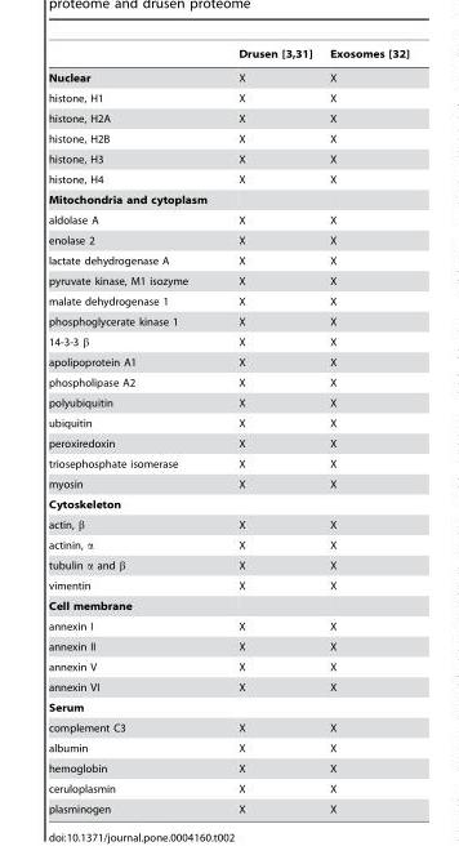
<table><thead><tr><td></td><td>Drusen [3,31]</td><td>Exosomes [32]</td></tr></thead><tbody><tr><td>Nuclear</td><td>X</td><td>X</td></tr><tr><td>histone, H1</td><td>X</td><td>X</td></tr><tr><td>histone, H2A</td><td>X</td><td>X</td></tr><tr><td>histone, H2B</td><td>X</td><td>X</td></tr><tr><td>histone, H3</td><td>X</td><td>X</td></tr><tr><td>histone, H4</td><td>X</td><td>X</td></tr><tr><td colspan="3">Mitochondria and cytoplasm</td></tr><tr><td>aldolase A</td><td>X</td><td>X</td></tr><tr><td>enolase 2</td><td>X</td><td>X</td></tr><tr><td>lactate dehydrogenase A</td><td>X</td><td>X</td></tr><tr><td>pyruvate kinase, M1 isozyme</td><td>X</td><td>X</td></tr><tr><td>malate dehydrogenase 1</td><td>X</td><td>X</td></tr><tr><td>phosphoglycerate kinase 1</td><td>X</td><td>X</td></tr><tr><td>14-3-3 β</td><td>X</td><td>X</td></tr><tr><td>apolipoprotein A1</td><td>X</td><td>X</td></tr><tr><td>phospholipase A2</td><td>X</td><td>X</td></tr><tr><td>polyubiquitin</td><td>X</td><td>X</td></tr><tr><td>ubiquitin</td><td>X</td><td>X</td></tr><tr><td>peroxiredoxin</td><td>X</td><td>X</td></tr><tr><td>triosephosphate isomerase</td><td>X</td><td>X</td></tr><tr><td>myosin</td><td>X</td><td>X</td></tr><tr><td colspan="3">Cytoskeleton</td></tr><tr><td>actin, β</td><td>X</td><td>X</td></tr><tr><td>actinin, α</td><td>X</td><td>X</td></tr><tr><td>tubulin α and β</td><td>X</td><td>X</td></tr><tr><td>vimentin</td><td>X</td><td>X</td></tr><tr><td colspan="3">Cell membrane</td></tr><tr><td>annexin I</td><td>X</td><td>X</td></tr><tr><td>annexin II</td><td>X</td><td>X</td></tr><tr><td>annexin V</td><td>X</td><td>X</td></tr><tr><td>annexin VI</td><td>X</td><td>X</td></tr><tr><td colspan="3">Serum</td></tr><tr><td>complement C3</td><td>X</td><td>X</td></tr><tr><td>albumin</td><td>X</td><td>X</td></tr><tr><td>hemoglobin</td><td>X</td><td>X</td></tr><tr><td>ceruloplasmin</td><td>X</td><td>X</td></tr><tr><td>plasminogen</td><td>X</td><td>X</td></tr></tbody></table>